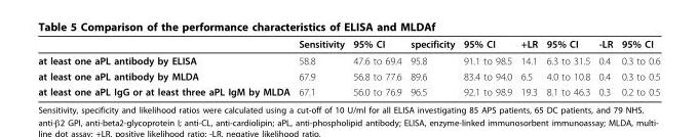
<table><thead><tr><td></td><td>Sensitivity</td><td>95% CI</td><td>specificity</td><td>95% CI</td><td>+LR</td><td>95% CI</td><td>-LR</td><td>95% CI</td></tr></thead><tbody><tr><td>at least one aPL antibody by ELISA</td><td>58.8</td><td>47.6 to 69.4</td><td>95.8</td><td>91.1 to 98.5</td><td>14.1</td><td>6.3 to 31.5</td><td>0.4</td><td>0.3 to 0.6</td></tr><tr><td>at least one aPL antibody by MLDA</td><td>67.9</td><td>56.8 to 77.6</td><td>89.6</td><td>83.4 to 94.0</td><td>6.5</td><td>4.0 to 10.8</td><td>0.4</td><td>0.3 to 0.5</td></tr><tr><td>at least one aPL IgG or at least three aPL IgM by MLDA</td><td>67.1</td><td>56.0 to 76.9</td><td>96.5</td><td>92.1 to 98.9</td><td>19.3</td><td>8.1 to 46.3</td><td>0.3</td><td>0.2 to 0.5</td></tr></tbody></table>